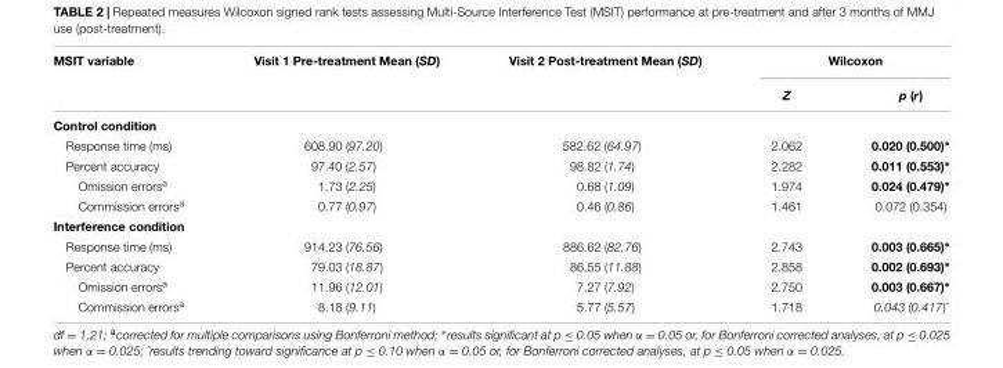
<table><thead><tr><td rowspan="2">MSIT variable</td><td rowspan="2">Visit 1 Pre-treatment Mean (SD)</td><td rowspan="2">Visit 2 Post-treatment Mean (SD)</td><td colspan="2">Wilcoxon</td></tr><tr><td>Z</td><td>p (r)</td></tr></thead><tbody><tr><td colspan="5">Control condition</td></tr><tr><td>Response time (ms)</td><td>608.90 (97.20)</td><td>582.62 (64.97)</td><td>2.062</td><td>0.020 (0.500)∗</td></tr><tr><td>Percent accuracy</td><td>97.40 (2.57)</td><td>98.82 (1.74)</td><td>2.282</td><td>0.011 (0.553)∗</td></tr><tr><td>Omission errors<sup>a</sup></td><td>1.73 (2.25)</td><td>0.68 (1.09)</td><td>1.974</td><td>0.024 (0.479)∗</td></tr><tr><td>Commission errors<sup>a</sup></td><td>0.77 (0.97)</td><td>0.46 (0.86)</td><td>1.461</td><td>0.072 (0.354)</td></tr><tr><td colspan="5">Interference condition</td></tr><tr><td>Response time (ms)</td><td>914.23 (76.56)</td><td>886.62 (82.76)</td><td>2.743</td><td>0.003 (0.665)∗</td></tr><tr><td>Percent accuracy</td><td>79.03 (18.87)</td><td>86.55 (11.88)</td><td>2.858</td><td>0.002 (0.693)∗</td></tr><tr><td>Omission errors<sup>a</sup></td><td>11.96 (12.01)</td><td>7.27 (7.92)</td><td>2.750</td><td>0.003 (0.667)∗</td></tr><tr><td>Commission errors<sup>a</sup></td><td>8.18 (9.11)</td><td>5.77 (5.57)</td><td>1.718</td><td>0.043 (0.417)ˆ</td></tr></tbody></table>